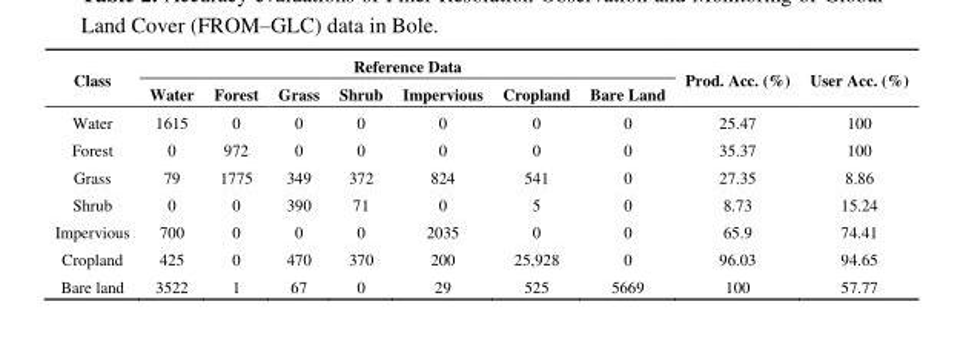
<table><thead><tr><td rowspan="2">Class</td><td colspan="7">Reference Data</td><td rowspan="2">Prod. Acc. (%)</td><td rowspan="2">User Acc. (%)</td></tr><tr><td>Water</td><td>Forest</td><td>Grass</td><td>Shrub</td><td>Impervious</td><td>Cropland</td><td>Bare Land</td></tr></thead><tbody><tr><td>Water</td><td>1615</td><td>0</td><td>0</td><td>0</td><td>0</td><td>0</td><td>0</td><td>25.47</td><td>100</td></tr><tr><td>Forest</td><td>0</td><td>972</td><td>0</td><td>0</td><td>0</td><td>0</td><td>0</td><td>35.37</td><td>100</td></tr><tr><td>Grass</td><td>79</td><td>1775</td><td>349</td><td>372</td><td>824</td><td>541</td><td>0</td><td>27.35</td><td>8.86</td></tr><tr><td>Shrub</td><td>0</td><td>0</td><td>390</td><td>71</td><td>0</td><td>5</td><td>0</td><td>8.73</td><td>15.24</td></tr><tr><td>Impervious</td><td>700</td><td>0</td><td>0</td><td>0</td><td>2035</td><td>0</td><td>0</td><td>65.9</td><td>74.41</td></tr><tr><td>Cropland</td><td>425</td><td>0</td><td>470</td><td>370</td><td>200</td><td>25,928</td><td>0</td><td>96.03</td><td>94.65</td></tr><tr><td>Bare land</td><td>3522</td><td>1</td><td>67</td><td>0</td><td>29</td><td>525</td><td>5669</td><td>100</td><td>57.77</td></tr></tbody></table>